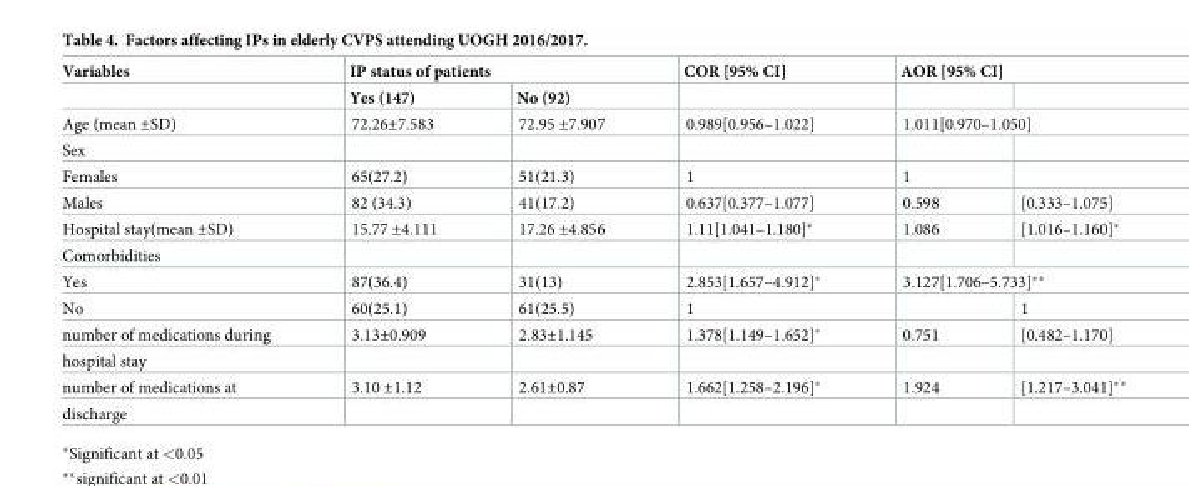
<table><thead><tr><td rowspan="2">Variables</td><td colspan="2">IP status of patients</td><td rowspan="2">COR [95% CI]</td><td colspan="2">AOR [95% CI]</td></tr><tr><td>Yes (147)</td><td>No (92)</td><td></td><td></td></tr></thead><tbody><tr><td>Age (mean ±SD)</td><td>72.26±7.583</td><td>72.95 ±7.907</td><td>0.989[0.956–1.022]</td><td colspan="2">1.011[0.970–1.050]</td></tr><tr><td colspan="6">Sex</td></tr><tr><td>Females</td><td>65(27.2)</td><td>51(21.3)</td><td>1</td><td>1</td><td></td></tr><tr><td>Males</td><td>82 (34.3)</td><td>41(17.2)</td><td>0.637[0.377–1.077]</td><td>0.598</td><td>[0.333–1.075]</td></tr><tr><td>Hospital stay(mean ±SD)</td><td>15.77 ±4.111</td><td>17.26 ±4.856</td><td>1.11[1.041–1.180]*</td><td>1.086</td><td>[1.016–1.160]*</td></tr><tr><td colspan="6">Comorbidities</td></tr><tr><td>Yes</td><td>87(36.4)</td><td>31(13)</td><td>2.853[1.657–4.912]*</td><td colspan="2">3.127[1.706–5.733]**</td></tr><tr><td>No</td><td>60(25.1)</td><td>61(25.5)</td><td>1</td><td></td><td>1</td></tr><tr><td>number of medications during</td><td>3.13±0.909</td><td>2.83±1.145</td><td>1.378[1.149–1.652]*</td><td>0.751</td><td>[0.482–1.170]</td></tr><tr><td colspan="6">hospital stay</td></tr><tr><td>number of medications at</td><td>3.10 ±1.12</td><td>2.61±0.87</td><td>1.662[1.258–2.196]*</td><td>1.924</td><td>[1.217–3.041]**</td></tr><tr><td>discharge</td><td></td><td></td><td></td><td></td><td></td></tr></tbody></table>